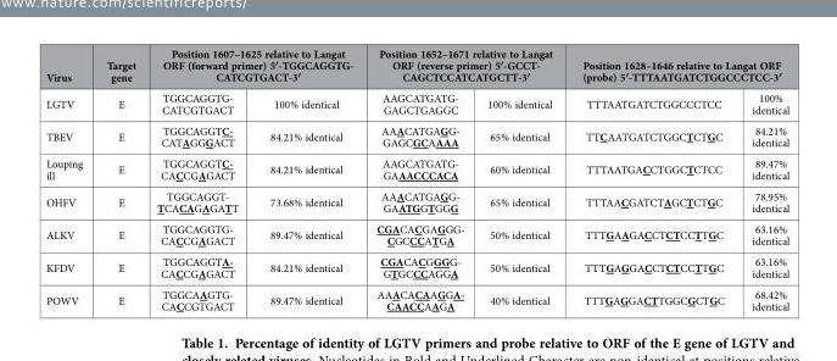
<table><thead><tr><td rowspan="2">Virus LGTV</td><td rowspan="2">Target gene E</td><td colspan="2">Position 1607–1625 relative to Langat ORF (forward primer) 5′-TGGCAGGTG- CATCGTGACT-3′</td><td colspan="2">Position 1652–1671 relative to Langat ORF (reverse primer) 5′-GCCT- CAGCTCCATCATGCTT-3′</td><td colspan="2">Position 1628–1646 relative to Langat ORF (probe) 5′-TTTAATGATCTGGCCCTCC-3′</td></tr><tr><td>TGGCAGGTG- CATCGTGACT</td><td>100% identical</td><td>AAGCATGATG- GAGCTGAGGC</td><td>100% identical</td><td>TTTAATGATCTGGCCCTCC</td><td>100% identical</td></tr></thead><tbody><tr><td>TBEV</td><td>E</td><td>TGGCAGGTC- CATAGGGACT</td><td>84.21% identical</td><td>AAACATGAGG- GAGCGCAAAA</td><td>65% identical</td><td>TTCAATGATCTGGCTCTGC</td><td>84.21% identical</td></tr><tr><td>Louping ill</td><td>E</td><td>TGGCAGGTC- CACCGAGACT</td><td>84.21% identical</td><td>AAGCATGATG- GAAACCCACA</td><td>60% identical</td><td>TTTAATGACCTGGCTCTCC</td><td>89.47% identical</td></tr><tr><td>OHFV</td><td>E</td><td>TGGCAGGT- TCACAGAGATT</td><td>73.68% identical</td><td>AAACATGAGG- GAATGGTGGG</td><td>65% identical</td><td>TTTAACGATCTAGCTCTGC</td><td>78.95% identical</td></tr><tr><td>ALKV</td><td>E</td><td>TGGCAGGTG- CACCGAGACT</td><td>89.47% identical</td><td>CGACACGAGGG- CGCCCATGA</td><td>50% identical</td><td>TTTGAAGACCTCTCCTTGC</td><td>63.16% identical</td></tr><tr><td>KFDV</td><td>E</td><td>TGGCAGGTA- CACCGAGACT</td><td>84.21% identical</td><td>CGACACGGGG- GTGCCCAGGA</td><td>50% identical</td><td>TTTGAGGACCTCTCCTTGC</td><td>63.16% identical</td></tr><tr><td>POWV</td><td>E</td><td>TGGCAAGTG- CACCGTGACT</td><td>89.47% identical</td><td>AAACACAAGGA- CAACCAAGA</td><td>40% identical</td><td>TTTGAGGACTTGGCGCTGC</td><td>68.42% identical</td></tr></tbody></table>